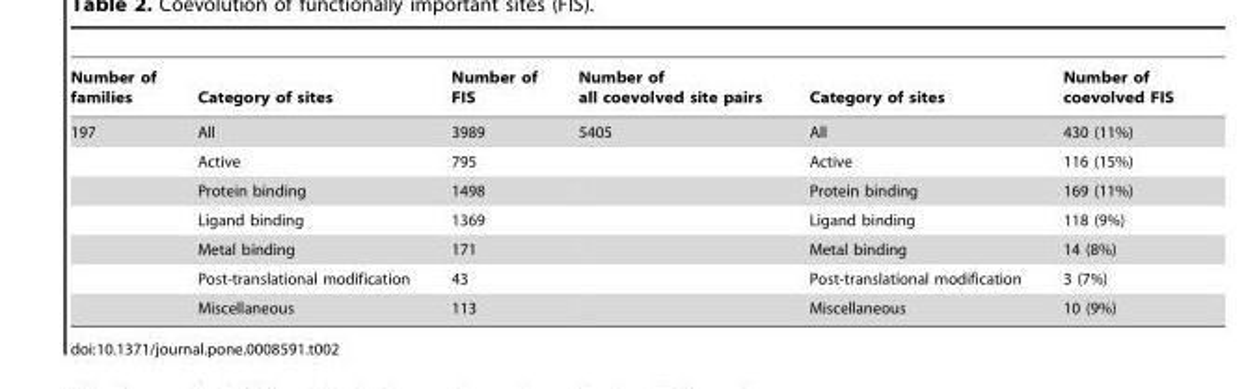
<table><thead><tr><td>Number of families</td><td>Category of sites</td><td>Number of FIS</td><td>Number of all coevolved site pairs</td><td>Category of sites</td><td>Number of coevolved FIS</td></tr></thead><tbody><tr><td rowspan="7">197</td><td>All</td><td>3989</td><td>5405</td><td>All</td><td>430 (11%)</td></tr><tr><td>Active</td><td>795</td><td></td><td>Active</td><td>116 (15%)</td></tr><tr><td>Protein binding</td><td>1498</td><td></td><td>Protein binding</td><td>169 (11%)</td></tr><tr><td>Ligand binding</td><td>1369</td><td></td><td>Ligand binding</td><td>118 (9%)</td></tr><tr><td>Metal binding</td><td>171</td><td></td><td>Metal binding</td><td>14 (8%)</td></tr><tr><td>Post-translational modification</td><td>43</td><td></td><td>Post-translational modification</td><td>3 (7%)</td></tr><tr><td>Miscellaneous</td><td>113</td><td></td><td>Miscellaneous</td><td>10 (9%)</td></tr></tbody></table>